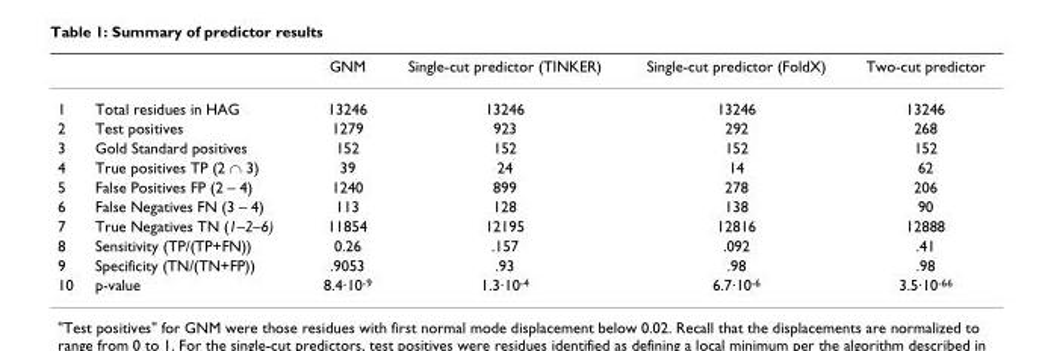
<table><thead><tr><td></td><td></td><td>GNM</td><td>Single-cut predictor (TINKER)</td><td>Single-cut predictor (FoldX)</td><td>Two-cut predictor</td></tr></thead><tbody><tr><td>1</td><td>Total residues in HAG</td><td>13246</td><td>13246</td><td>13246</td><td>13246</td></tr><tr><td>2</td><td>Test positives</td><td>1279</td><td>923</td><td>292</td><td>268</td></tr><tr><td>3</td><td>Gold Standard positives</td><td>152</td><td>152</td><td>152</td><td>152</td></tr><tr><td>4</td><td>True positives TP (2 ∩ 3)</td><td>39</td><td>24</td><td>14</td><td>62</td></tr><tr><td>5</td><td>False Positives FP (2 – 4)</td><td>1240</td><td>899</td><td>278</td><td>206</td></tr><tr><td>6</td><td>False Negatives FN (3 – 4)</td><td>113</td><td>128</td><td>138</td><td>90</td></tr><tr><td>7</td><td>True Negatives TN (1–2–6)</td><td>11854</td><td>12195</td><td>12816</td><td>12888</td></tr><tr><td>8</td><td>Sensitivity (TP/(TP+FN))</td><td>0.26</td><td>.157</td><td>.092</td><td>.41</td></tr><tr><td>9</td><td>Specificity (TN/(TN+FP))</td><td>.9053</td><td>.93</td><td>.98</td><td>.98</td></tr><tr><td>10</td><td>p-value</td><td>8.4·10<sup>-9</sup></td><td>1.3·10<sup>-4</sup></td><td>6.7·10<sup>-6</sup></td><td>3.5·10<sup>-66</sup></td></tr></tbody></table>